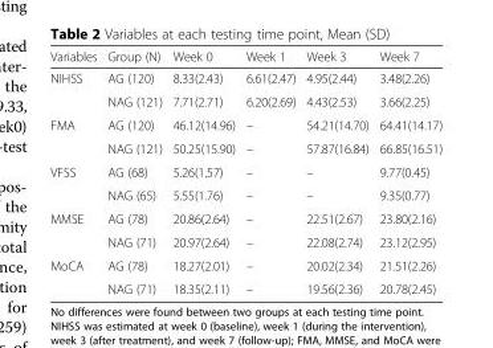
<table><thead><tr><td>Variables</td><td>Group (N)</td><td>Week 0</td><td>Week 1</td><td>Week 3</td><td>Week 7</td></tr></thead><tbody><tr><td rowspan="2">NIHSS</td><td>AG (120)</td><td>8.33(2.43)</td><td>6.61(2.47)</td><td>4.95(2.44)</td><td>3.48(2.26)</td></tr><tr><td>NAG (121)</td><td>7.71(2.71)</td><td>6.20(2.69)</td><td>4.43(2.53)</td><td>3.66(2.25)</td></tr><tr><td rowspan="2">FMA</td><td>AG (120)</td><td>46.12(14.96)</td><td>–</td><td>54.21(14.70)</td><td>64.41(14.17)</td></tr><tr><td>NAG (121)</td><td>50.25(15.90)</td><td>–</td><td>57.87(16.84)</td><td>66.85(16.51)</td></tr><tr><td rowspan="2">VFSS</td><td>AG (68)</td><td>5.26(1.57)</td><td>–</td><td>–</td><td>9.77(0.45)</td></tr><tr><td>NAG (65)</td><td>5.55(1.76)</td><td>–</td><td>–</td><td>9.35(0.77)</td></tr><tr><td rowspan="2">MMSE</td><td>AG (78)</td><td>20.86(2.64)</td><td>–</td><td>22.51(2.67)</td><td>23.80(2.16)</td></tr><tr><td>NAG (71)</td><td>20.97(2.64)</td><td>–</td><td>22.08(2.74)</td><td>23.12(2.95)</td></tr><tr><td rowspan="2">MoCA</td><td>AG (78)</td><td>18.27(2.01)</td><td>–</td><td>20.02(2.34)</td><td>21.51(2.26)</td></tr><tr><td>NAG (71)</td><td>18.35(2.11)</td><td>–</td><td>19.56(2.36)</td><td>20.78(2.45)</td></tr></tbody></table>